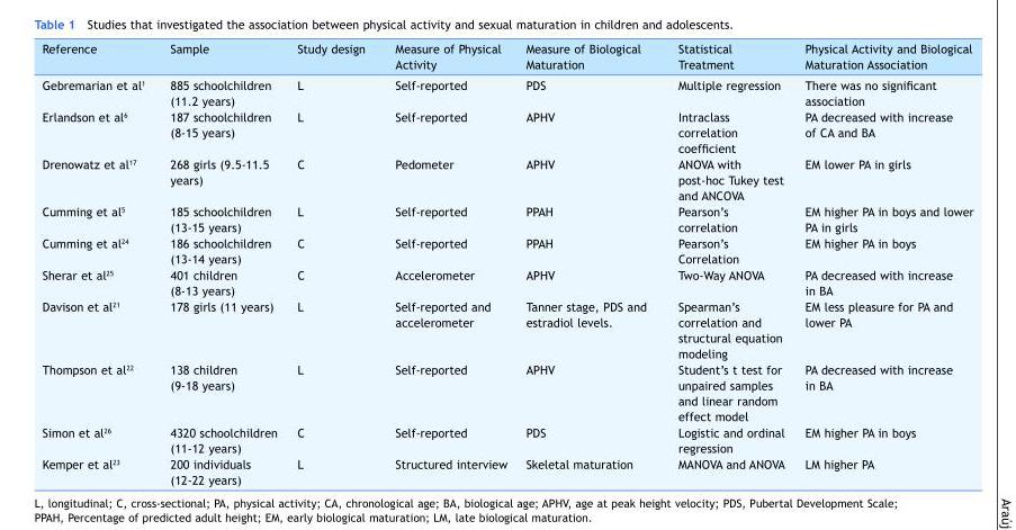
<table><thead><tr><td>Reference</td><td>Sample</td><td>Study design</td><td>Measure of Physical Activity</td><td>Measure of Biological Maturation</td><td>Statistical Treatment</td><td>Physical Activity and Biological Maturation Association</td></tr></thead><tbody><tr><td>Gebremarian et al<sup>1</sup></td><td>885 schoolchildren (11.2 years)</td><td>L</td><td>Self-reported</td><td>PDS</td><td>Multiple regression</td><td>There was no significant association</td></tr><tr><td>Erlandson et al<sup>6</sup></td><td>187 schoolchildren (8-15 years)</td><td>L</td><td>Self-reported</td><td>APHV</td><td>Intraclass correlation coefficient</td><td>PA decreased with increase of CA and BA</td></tr><tr><td>Drenowatz et al<sup>17</sup></td><td>268 girls (9.5-11.5 years)</td><td>C</td><td>Pedometer</td><td>APHV</td><td>ANOVA with post-hoc Tukey test and ANCOVA</td><td>EM lower PA in girls</td></tr><tr><td>Cumming et al<sup>5</sup></td><td>185 schoolchildren (13-15 years)</td><td>L</td><td>Self-reported</td><td>PPAH</td><td>Pearson’s correlation</td><td>EM higher PA in boys and lower PA in girls</td></tr><tr><td>Cumming et al<sup>24</sup></td><td>186 schoolchildren (13-14 years)</td><td>C</td><td>Self-reported</td><td>PPAH</td><td>Pearson’s Correlation</td><td>EM higher PA in boys</td></tr><tr><td>Sherar et al<sup>25</sup></td><td>401 children (8-13 years)</td><td>C</td><td>Accelerometer</td><td>APHV</td><td>Two-Way ANOVA</td><td>PA decreased with increase in BA</td></tr><tr><td>Davison et al<sup>21</sup></td><td>178 girls (11 years)</td><td>L</td><td>Self-reported and accelerometer</td><td>Tanner stage, PDS and estradiol levels.</td><td>Spearman’s correlation and structural equation modeling</td><td>EM less pleasure for PA and lower PA</td></tr><tr><td>Thompson et al<sup>22</sup></td><td>138 children (9-18 years)</td><td>L</td><td>Self-reported</td><td>APHV</td><td>Student’s t test for unpaired samples and linear random effect model</td><td>PA decreased with increase in BA</td></tr><tr><td>Simon et al<sup>26</sup></td><td>4320 schoolchildren (11-12 years)</td><td>C</td><td>Self-reported</td><td>PDS</td><td>Logistic and ordinal regression</td><td>EM higher PA in boys</td></tr><tr><td>Kemper et al<sup>23</sup></td><td>200 individuals (12-22 years)</td><td>L</td><td>Structured interview</td><td>Skeletal maturation</td><td>MANOVA and ANOVA</td><td>LM higher PA</td></tr></tbody></table>